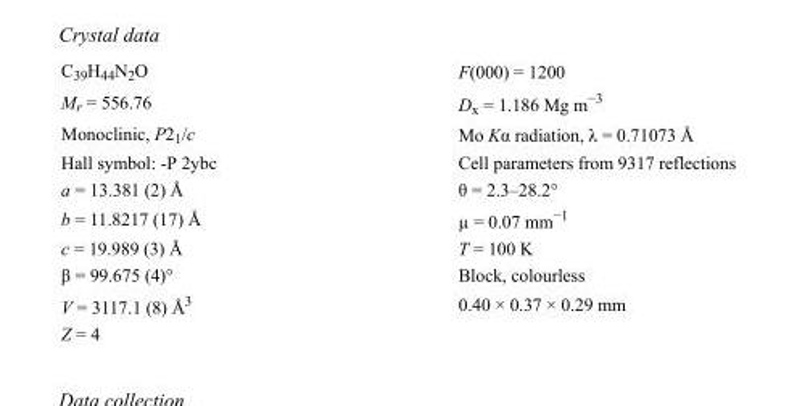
<table><tbody><tr><td>C<sub>39</sub>H<sub>44</sub>N<sub>2</sub>O</td><td>F(000) = 1200</td></tr><tr><td>M<sub>r</sub> = 556.76</td><td>D<sub>x</sub> = 1.186 Mg m<sup>−3</sup></td></tr><tr><td>Monoclinic, P2<sub>1</sub>/c</td><td>Mo Kα radiation, λ = 0.71073 Å</td></tr><tr><td>Hall symbol: -P 2ybc</td><td>Cell parameters from 9317 reflections</td></tr><tr><td>a = 13.381 (2) Å</td><td>θ = 2.3–28.2°</td></tr><tr><td>b = 11.8217 (17) Å</td><td>µ = 0.07 mm<sup>−1</sup></td></tr><tr><td>c = 19.989 (3) Å</td><td>T = 100 K</td></tr><tr><td>β = 99.675 (4)°</td><td>Block, colourless</td></tr><tr><td>V = 3117.1 (8) Å<sup>3</sup></td><td>0.40 × 0.37 × 0.29 mm</td></tr><tr><td>Z = 4</td><td></td></tr></tbody></table>